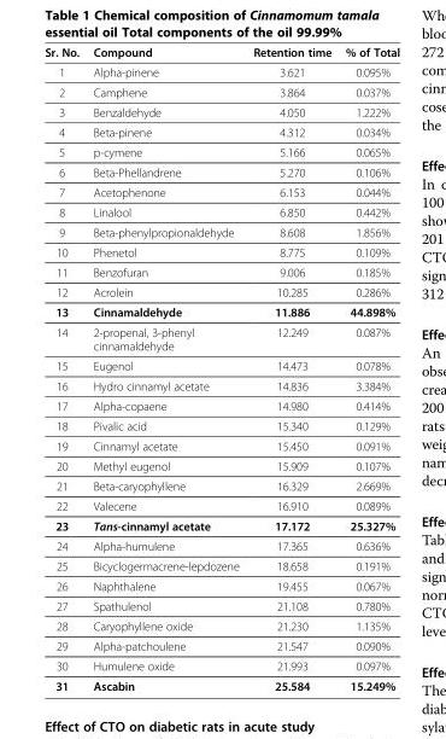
<table><thead><tr><td>Sr. No.</td><td>Compound</td><td>Retention time</td><td>% of Total</td></tr></thead><tbody><tr><td>1</td><td>Alpha-pinene</td><td>3.621</td><td>0.095%</td></tr><tr><td>2</td><td>Camphene</td><td>3.864</td><td>0.037%</td></tr><tr><td>3</td><td>Benzaldehyde</td><td>4.050</td><td>1.222%</td></tr><tr><td>4</td><td>Beta-pinene</td><td>4.312</td><td>0.034%</td></tr><tr><td>5</td><td>p-cymene</td><td>5.166</td><td>0.065%</td></tr><tr><td>6</td><td>Beta-Phellandrene</td><td>5.270</td><td>0.106%</td></tr><tr><td>7</td><td>Acetophenone</td><td>6.153</td><td>0.044%</td></tr><tr><td>8</td><td>Linalool</td><td>6.850</td><td>0.442%</td></tr><tr><td>9</td><td>Beta-phenylpropionaldehyde</td><td>8.608</td><td>1.856%</td></tr><tr><td>10</td><td>Phenetol</td><td>8.775</td><td>0.109%</td></tr><tr><td>11</td><td>Benzofuran</td><td>9.006</td><td>0.185%</td></tr><tr><td>12</td><td>Acrolein</td><td>10.285</td><td>0.286%</td></tr><tr><td>13</td><td>Cinnamaldehyde</td><td>11.886</td><td>44.898%</td></tr><tr><td>14</td><td>2-propenal, 3-phenyl cinnamaldehyde</td><td>12.249</td><td>0.087%</td></tr><tr><td>15</td><td>Eugenol</td><td>14.473</td><td>0.078%</td></tr><tr><td>16</td><td>Hydro cinnamyl acetate</td><td>14.836</td><td>3.384%</td></tr><tr><td>17</td><td>Alpha-copaene</td><td>14.980</td><td>0.414%</td></tr><tr><td>18</td><td>Pivalic acid</td><td>15.340</td><td>0.129%</td></tr><tr><td>19</td><td>Cinnamyl acetate</td><td>15.450</td><td>0.091%</td></tr><tr><td>20</td><td>Methyl eugenol</td><td>15.909</td><td>0.107%</td></tr><tr><td>21</td><td>Beta-caryophyllene</td><td>16.329</td><td>2.669%</td></tr><tr><td>22</td><td>Valecene</td><td>16.910</td><td>0.089%</td></tr><tr><td>23</td><td>Tans-cinnamyl acetate</td><td>17.172</td><td>25.327%</td></tr><tr><td>24</td><td>Alpha-humulene</td><td>17.365</td><td>0.636%</td></tr><tr><td>25</td><td>Bicyclogermacrene-lepdozene</td><td>18.658</td><td>0.191%</td></tr><tr><td>26</td><td>Naphthalene</td><td>19.455</td><td>0.067%</td></tr><tr><td>27</td><td>Spathulenol</td><td>21.108</td><td>0.780%</td></tr><tr><td>28</td><td>Caryophyllene oxide</td><td>21.230</td><td>1.135%</td></tr><tr><td>29</td><td>Alpha-patchoulene</td><td>21.547</td><td>0.090%</td></tr><tr><td>30</td><td>Humulene oxide</td><td>21.993</td><td>0.097%</td></tr><tr><td>31</td><td>Ascabin</td><td>25.584</td><td>15.249%</td></tr></tbody></table>